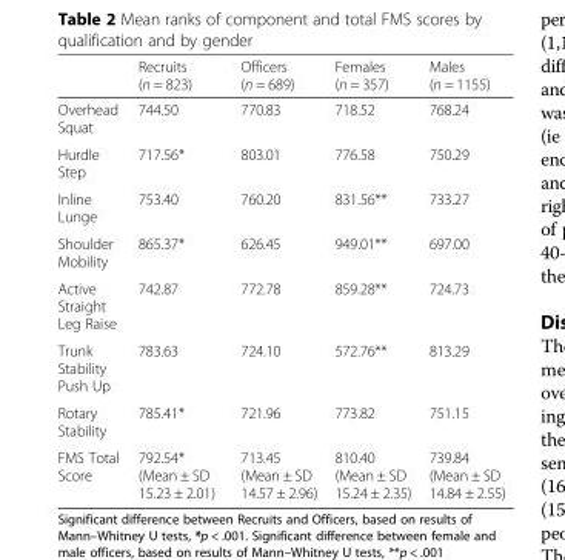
<table><thead><tr><td></td><td>Recruits (n = 823)</td><td>Officers (n = 689)</td><td>Females (n = 357)</td><td>Males (n = 1155)</td></tr></thead><tbody><tr><td>Overhead Squat</td><td>744.50</td><td>770.83</td><td>718.52</td><td>768.24</td></tr><tr><td>Hurdle Step</td><td>717.56*</td><td>803.01</td><td>776.58</td><td>750.29</td></tr><tr><td>Inline Lunge</td><td>753.40</td><td>760.20</td><td>831.56**</td><td>733.27</td></tr><tr><td>Shoulder Mobility</td><td>865.37*</td><td>626.45</td><td>949.01**</td><td>697.00</td></tr><tr><td>Active Straight Leg Raise</td><td>742.87</td><td>772.78</td><td>859.28**</td><td>724.73</td></tr><tr><td>Trunk Stability Push Up</td><td>783.63</td><td>724.10</td><td>572.76**</td><td>813.29</td></tr><tr><td>Rotary Stability</td><td>785.41*</td><td>721.96</td><td>773.82</td><td>751.15</td></tr><tr><td>FMS Total Score</td><td>792.54* (Mean ± SD 15.23 ± 2.01)</td><td>713.45 (Mean ± SD 14.57 ± 2.96)</td><td>810.40 (Mean ± SD 15.24 ± 2.35)</td><td>739.84 (Mean ± SD 14.84 ± 2.55)</td></tr></tbody></table>